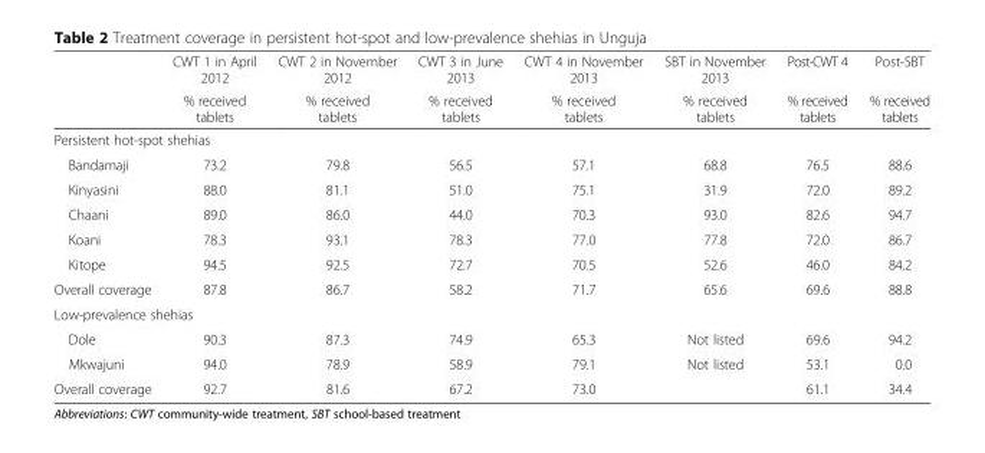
<table><thead><tr><td rowspan="2"></td><td rowspan="2">CWT 1 in April 2012 % received tablets</td><td rowspan="2">CWT 2 in November 2012 % received tablets</td><td rowspan="2">CWT 3 in June 2013 % received tablets</td><td rowspan="2">CWT 4 in November 2013 % received tablets</td><td rowspan="2">SBT in November 2013 % received tablets</td><td rowspan="2">Post-CWT 4 % received tablets</td><td rowspan="2">Post-SBT % received tablets</td></tr><tr></tr></thead><tbody><tr><td colspan="8">Persistent hot-spot shehias</td></tr><tr><td>Bandamaji</td><td>73.2</td><td>79.8</td><td>56.5</td><td>57.1</td><td>68.8</td><td>76.5</td><td>88.6</td></tr><tr><td>Kinyasini</td><td>88.0</td><td>81.1</td><td>51.0</td><td>75.1</td><td>31.9</td><td>72.0</td><td>89.2</td></tr><tr><td>Chaani</td><td>89.0</td><td>86.0</td><td>44.0</td><td>70.3</td><td>93.0</td><td>82.6</td><td>94.7</td></tr><tr><td>Koani</td><td>78.3</td><td>93.1</td><td>78.3</td><td>77.0</td><td>77.8</td><td>72.0</td><td>86.7</td></tr><tr><td>Kitope</td><td>94.5</td><td>92.5</td><td>72.7</td><td>70.5</td><td>52.6</td><td>46.0</td><td>84.2</td></tr><tr><td>Overall coverage</td><td>87.8</td><td>86.7</td><td>58.2</td><td>71.7</td><td>65.6</td><td>69.6</td><td>88.8</td></tr><tr><td colspan="8">Low-prevalence shehias</td></tr><tr><td>Dole</td><td>90.3</td><td>87.3</td><td>74.9</td><td>65.3</td><td>Not listed</td><td>69.6</td><td>94.2</td></tr><tr><td>Mkwajuni</td><td>94.0</td><td>78.9</td><td>58.9</td><td>79.1</td><td>Not listed</td><td>53.1</td><td>0.0</td></tr><tr><td>Overall coverage</td><td>92.7</td><td>81.6</td><td>67.2</td><td>73.0</td><td></td><td>61.1</td><td>34.4</td></tr></tbody></table>